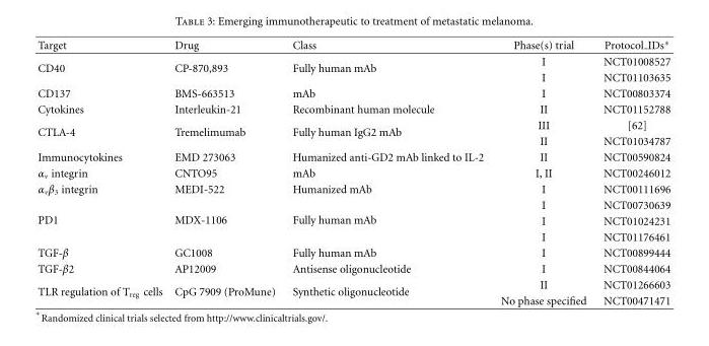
<table><thead><tr><td>Target</td><td>Drug</td><td>Class</td><td>Phase(s) trial</td><td>Protocol IDs∗</td></tr></thead><tbody><tr><td rowspan="2">CD40</td><td rowspan="2">CP-870,893</td><td rowspan="2">Fully human mAb</td><td>I</td><td>NCT01008527</td></tr><tr><td>I</td><td>NCT01103635</td></tr><tr><td>CD137</td><td>BMS-663513</td><td>mAb</td><td>I</td><td>NCT00803374</td></tr><tr><td>Cytokines</td><td>Interleukin-21</td><td>Recombinant human molecule</td><td>II</td><td>NCT01152788</td></tr><tr><td rowspan="2">CTLA-4</td><td rowspan="2">Tremelimumab</td><td rowspan="2">Fully human IgG2 mAb</td><td>III</td><td>[62]</td></tr><tr><td>II</td><td>NCT01034787</td></tr><tr><td>Immunocytokines</td><td>EMD 273063</td><td>Humanized anti-GD2 mAb linked to IL-2</td><td>II</td><td>NCT00590824</td></tr><tr><td>α<sub>v</sub> integrin</td><td>CNTO95</td><td>mAb</td><td>I, II</td><td>NCT00246012</td></tr><tr><td>α<sub>v</sub>β<sub>3</sub> integrin</td><td>MEDI-522</td><td>Humanized mAb</td><td>I</td><td>NCT00111696</td></tr><tr><td rowspan="3">PD1</td><td rowspan="3">MDX-1106</td><td rowspan="3">Fully human mAb</td><td>I</td><td>NCT00730639</td></tr><tr><td>I</td><td>NCT01024231</td></tr><tr><td>I</td><td>NCT01176461</td></tr><tr><td>TGF-β</td><td>GC1008</td><td>Fully human mAb</td><td>I</td><td>NCT00899444</td></tr><tr><td>TGF-β2</td><td>AP12009</td><td>Antisense oligonucleotide</td><td>I</td><td>NCT00844064</td></tr><tr><td rowspan="2">TLR regulation of T<sub>reg</sub> cells</td><td rowspan="2">CpG 7909 (ProMune)</td><td rowspan="2">Synthetic oligonucleotide</td><td>II</td><td>NCT01266603</td></tr><tr><td>No phase specified</td><td>NCT00471471</td></tr></tbody></table>